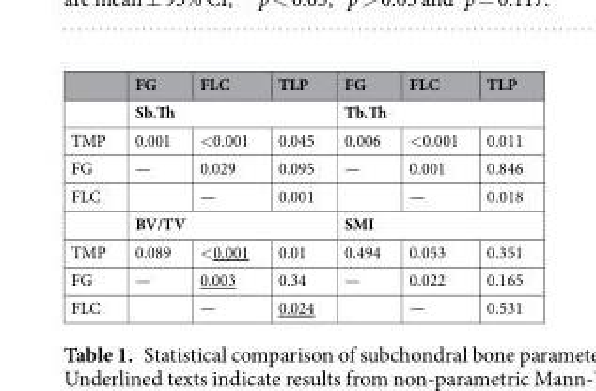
<table><thead><tr><td></td><td>FG</td><td>FLC</td><td>TLP</td><td>FG</td><td>FLC</td><td>TLP</td></tr></thead><tbody><tr><td></td><td colspan="3">Sb.Th</td><td colspan="3">Tb.Th</td></tr><tr><td>TMP</td><td>0.001</td><td>&lt;0.001</td><td>0.045</td><td>0.006</td><td>&lt;0.001</td><td>0.011</td></tr><tr><td>FG</td><td>—</td><td>0.029</td><td>0.095</td><td>—</td><td>0.001</td><td>0.846</td></tr><tr><td rowspan="2">FLC</td><td></td><td>—</td><td>0.001</td><td></td><td>—</td><td>0.018</td></tr><tr><td colspan="3">BV/TV</td><td colspan="3">SMI</td></tr><tr><td>TMP</td><td>0.089</td><td>&lt;0.001</td><td>0.01</td><td>0.494</td><td>0.053</td><td>0.351</td></tr><tr><td>FG</td><td>—</td><td>0.003</td><td>0.34</td><td>—</td><td>0.022</td><td>0.165</td></tr><tr><td>FLC</td><td></td><td>—</td><td>0.024</td><td></td><td>—</td><td>0.531</td></tr></tbody></table>